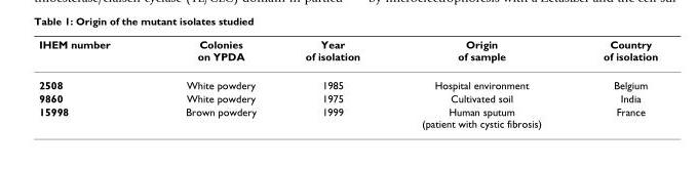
<table><thead><tr><td>IHEM number</td><td>Colonies on YPDA</td><td>Year of isolation</td><td>Origin of sample</td><td>Country of isolation</td></tr></thead><tbody><tr><td>2508</td><td>White powdery</td><td>1985</td><td>Hospital environment</td><td>Belgium</td></tr><tr><td>9860</td><td>White powdery</td><td>1975</td><td>Cultivated soil</td><td>India</td></tr><tr><td>15998</td><td>Brown powdery</td><td>1999</td><td>Human sputum (patient with cystic fibrosis)</td><td>France</td></tr></tbody></table>